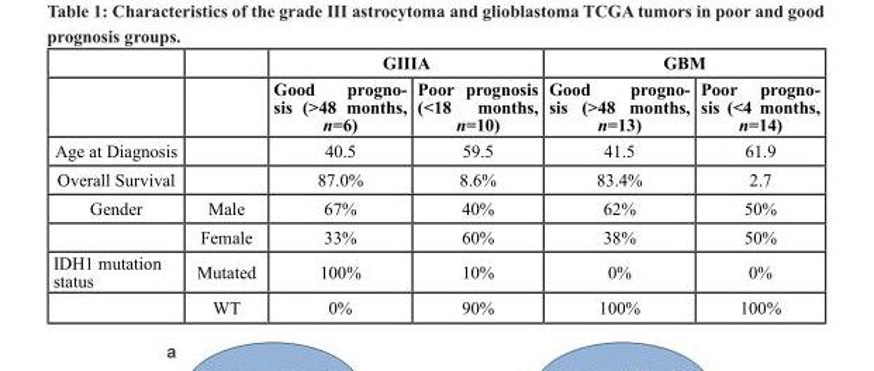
<table><thead><tr><td rowspan="2"></td><td rowspan="2"></td><td colspan="2">GIIIA</td><td colspan="2">GBM</td></tr><tr><td>Good progno- sis (&gt;48 months, n=6)</td><td>Poor prognosis (&lt;18 months, n=10)</td><td>Good progno- sis (&gt;48 months, n=13)</td><td>Poor progno- sis (&lt;4 months, n=14)</td></tr></thead><tbody><tr><td>Age at Diagnosis</td><td></td><td>40.5</td><td>59.5</td><td>41.5</td><td>61.9</td></tr><tr><td>Overall Survival</td><td></td><td>87.0%</td><td>8.6%</td><td>83.4%</td><td>2.7</td></tr><tr><td rowspan="2">Gender</td><td>Male</td><td>67%</td><td>40%</td><td>62%</td><td>50%</td></tr><tr><td>Female</td><td>33%</td><td>60%</td><td>38%</td><td>50%</td></tr><tr><td rowspan="2">IDH1 mutation status</td><td>Mutated</td><td>100%</td><td>10%</td><td>0%</td><td>0%</td></tr><tr><td>WT</td><td>0%</td><td>90%</td><td>100%</td><td>100%</td></tr></tbody></table>